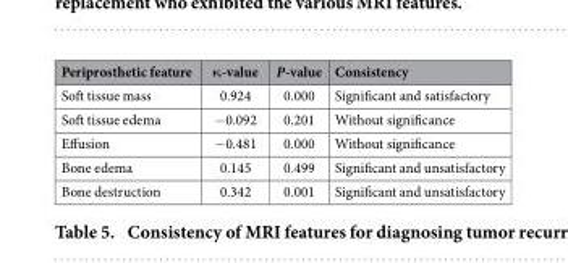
<table><thead><tr><td>Periprosthetic feature</td><td>κ-value</td><td>P-value</td><td>Consistency</td></tr></thead><tbody><tr><td>Soft tissue mass</td><td>0.924</td><td>0.000</td><td>Significant and satisfactory</td></tr><tr><td>Soft tissue edema</td><td>− 0.092</td><td>0.201</td><td>Without significance</td></tr><tr><td>Effusion</td><td>− 0.481</td><td>0.000</td><td>Without significance</td></tr><tr><td>Bone edema</td><td>0.145</td><td>0.499</td><td>Significant and unsatisfactory</td></tr><tr><td>Bone destruction</td><td>0.342</td><td>0.001</td><td>Significant and unsatisfactory</td></tr></tbody></table>